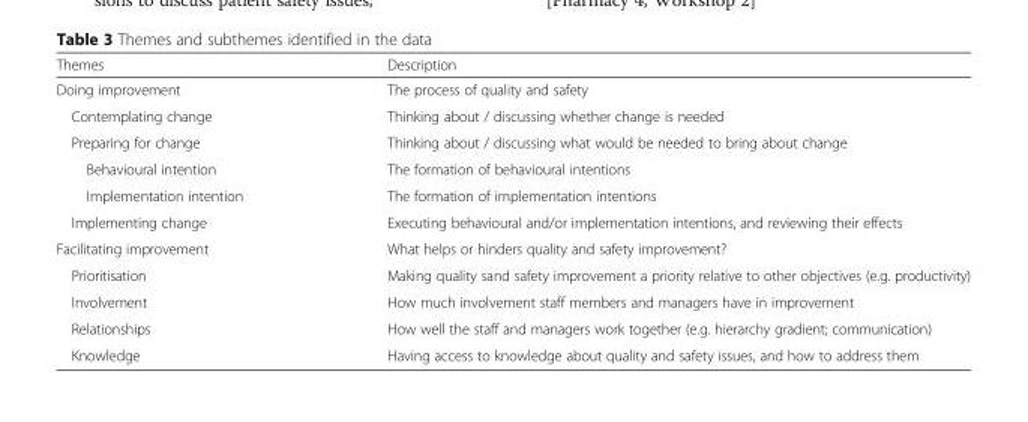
<table><thead><tr><td>Themes</td><td>Description</td></tr></thead><tbody><tr><td>Doing improvement</td><td>The process of quality and safety</td></tr><tr><td>Contemplating change</td><td>Thinking about / discussing whether change is needed</td></tr><tr><td>Preparing for change</td><td>Thinking about / discussing what would be needed to bring about change</td></tr><tr><td>Behavioural intention</td><td>The formation of behavioural intentions</td></tr><tr><td>Implementation intention</td><td>The formation of implementation intentions</td></tr><tr><td>Implementing change</td><td>Executing behavioural and/or implementation intentions, and reviewing their effects</td></tr><tr><td>Facilitating improvement</td><td>What helps or hinders quality and safety improvement?</td></tr><tr><td>Prioritisation</td><td>Making quality sand safety improvement a priority relative to other objectives (e.g. productivity)</td></tr><tr><td>Involvement</td><td>How much involvement staff members and managers have in improvement</td></tr><tr><td>Relationships</td><td>How well the staff and managers work together (e.g. hierarchy gradient; communication)</td></tr><tr><td>Knowledge</td><td>Having access to knowledge about quality and safety issues, and how to address them</td></tr></tbody></table>